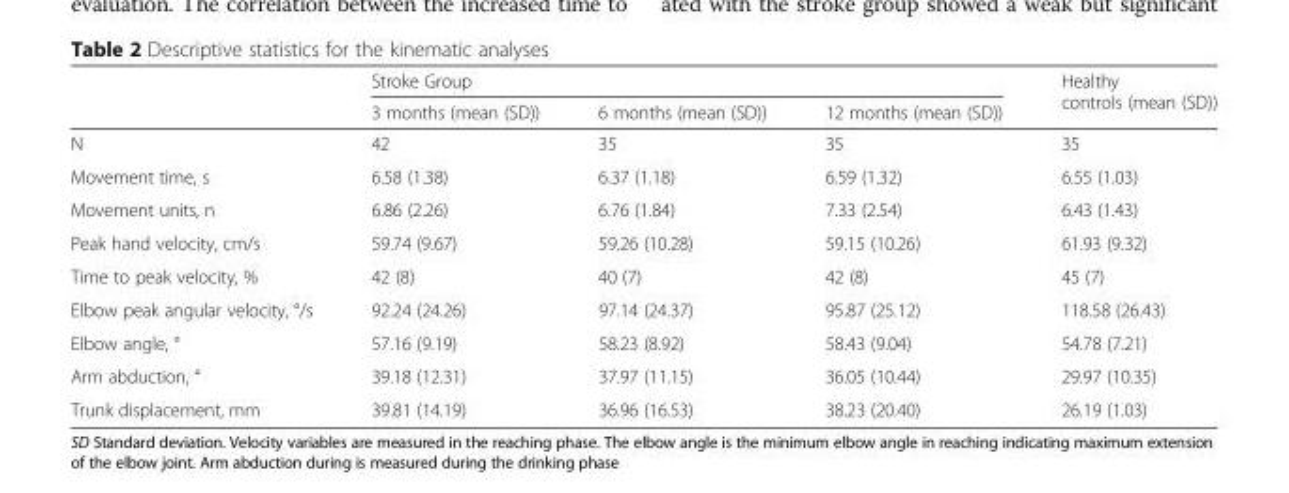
<table><thead><tr><td rowspan="2"></td><td colspan="3">Stroke Group</td><td rowspan="2">Healthy controls (mean (SD))</td></tr><tr><td>3 months (mean (SD))</td><td>6 months (mean (SD))</td><td>12 months (mean (SD))</td></tr></thead><tbody><tr><td>N</td><td>42</td><td>35</td><td>35</td><td>35</td></tr><tr><td>Movement time, s</td><td>6.58 (1.38)</td><td>6.37 (1.18)</td><td>6.59 (1.32)</td><td>6.55 (1.03)</td></tr><tr><td>Movement units, n</td><td>6.86 (2.26)</td><td>6.76 (1.84)</td><td>7.33 (2.54)</td><td>6.43 (1.43)</td></tr><tr><td>Peak hand velocity, cm/s</td><td>59.74 (9.67)</td><td>59.26 (10.28)</td><td>59.15 (10.26)</td><td>61.93 (9.32)</td></tr><tr><td>Time to peak velocity, %</td><td>42 (8)</td><td>40 (7)</td><td>42 (8)</td><td>45 (7)</td></tr><tr><td>Elbow peak angular velocity, °/s</td><td>92.24 (24.26)</td><td>97.14 (24.37)</td><td>95.87 (25.12)</td><td>118.58 (26.43)</td></tr><tr><td>Elbow angle, °</td><td>57.16 (9.19)</td><td>58.23 (8.92)</td><td>58.43 (9.04)</td><td>54.78 (7.21)</td></tr><tr><td>Arm abduction, °</td><td>39.18 (12.31)</td><td>37.97 (11.15)</td><td>36.05 (10.44)</td><td>29.97 (10.35)</td></tr><tr><td>Trunk displacement, mm</td><td>39.81 (14.19)</td><td>36.96 (16.53)</td><td>38.23 (20.40)</td><td>26.19 (1.03)</td></tr></tbody></table>